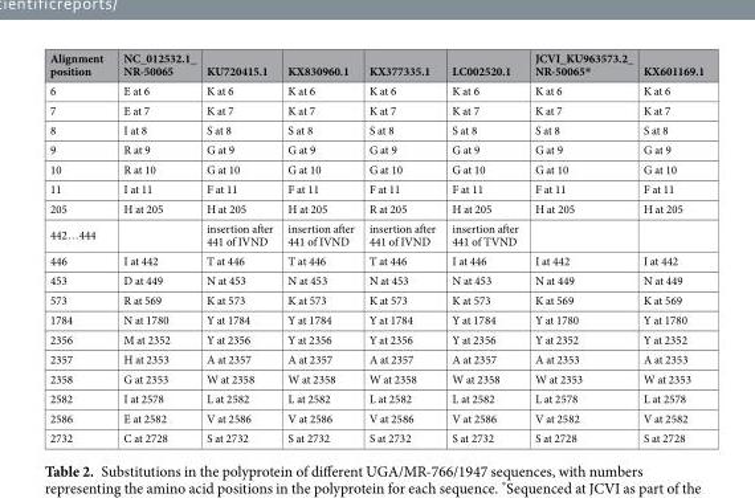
<table><thead><tr><td>Alignment position</td><td>NC_012532.1_ NR-50065</td><td>KU720415.1</td><td>KX830960.1</td><td>KX377335.1</td><td>LC002520.1</td><td>JCVI_KU963573.2_ NR-50065*</td><td>KX601169.1</td></tr></thead><tbody><tr><td>6</td><td>E at 6</td><td>K at 6</td><td>K at 6</td><td>K at 6</td><td>K at 6</td><td>K at 6</td><td>K at 6</td></tr><tr><td>7</td><td>E at 7</td><td>K at 7</td><td>K at 7</td><td>K at 7</td><td>K at 7</td><td>K at 7</td><td>K at 7</td></tr><tr><td>8</td><td>I at 8</td><td>S at 8</td><td>S at 8</td><td>S at 8</td><td>S at 8</td><td>S at 8</td><td>S at 8</td></tr><tr><td>9</td><td>R at 9</td><td>G at 9</td><td>G at 9</td><td>G at 9</td><td>G at 9</td><td>G at 9</td><td>G at 9</td></tr><tr><td>10</td><td>R at 10</td><td>G at 10</td><td>G at 10</td><td>G at 10</td><td>G at 10</td><td>G at 10</td><td>G at 10</td></tr><tr><td>11</td><td>I at 11</td><td>F at 11</td><td>F at 11</td><td>F at 11</td><td>F at 11</td><td>F at 11</td><td>F at 11</td></tr><tr><td>205</td><td>H at 205</td><td>H at 205</td><td>H at 205</td><td>R at 205</td><td>H at 205</td><td>H at 205</td><td>H at 205</td></tr><tr><td>442…444</td><td></td><td>insertion after 441 of IVND</td><td>insertion after 441 of IVND</td><td>insertion after 441 of IVND</td><td>insertion after 441 of TVND</td><td></td><td></td></tr><tr><td>446</td><td>I at 442</td><td>T at 446</td><td>T at 446</td><td>T at 446</td><td>I at 446</td><td>I at 442</td><td>I at 442</td></tr><tr><td>453</td><td>D at 449</td><td>N at 453</td><td>N at 453</td><td>N at 453</td><td>N at 453</td><td>N at 449</td><td>N at 449</td></tr><tr><td>573</td><td>R at 569</td><td>K at 573</td><td>K at 573</td><td>K at 573</td><td>K at 573</td><td>K at 569</td><td>K at 569</td></tr><tr><td>1784</td><td>N at 1780</td><td>Y at 1784</td><td>Y at 1784</td><td>Y at 1784</td><td>Y at 1784</td><td>Y at 1780</td><td>Y at 1780</td></tr><tr><td>2356</td><td>M at 2352</td><td>Y at 2356</td><td>Y at 2356</td><td>Y at 2356</td><td>Y at 2356</td><td>Y at 2352</td><td>Y at 2352</td></tr><tr><td>2357</td><td>H at 2353</td><td>A at 2357</td><td>A at 2357</td><td>A at 2357</td><td>A at 2357</td><td>A at 2353</td><td>A at 2353</td></tr><tr><td>2358</td><td>G at 2353</td><td>W at 2358</td><td>W at 2358</td><td>W at 2358</td><td>W at 2358</td><td>W at 2353</td><td>W at 2353</td></tr><tr><td>2582</td><td>I at 2578</td><td>L at 2582</td><td>L at 2582</td><td>L at 2582</td><td>L at 2582</td><td>L at 2578</td><td>L at 2578</td></tr><tr><td>2586</td><td>E at 2582</td><td>V at 2586</td><td>V at 2586</td><td>V at 2586</td><td>V at 2586</td><td>V at 2582</td><td>V at 2582</td></tr><tr><td>2732</td><td>C at 2728</td><td>S at 2732</td><td>S at 2732</td><td>S at 2732</td><td>S at 2732</td><td>S at 2728</td><td>S at 2728</td></tr></tbody></table>